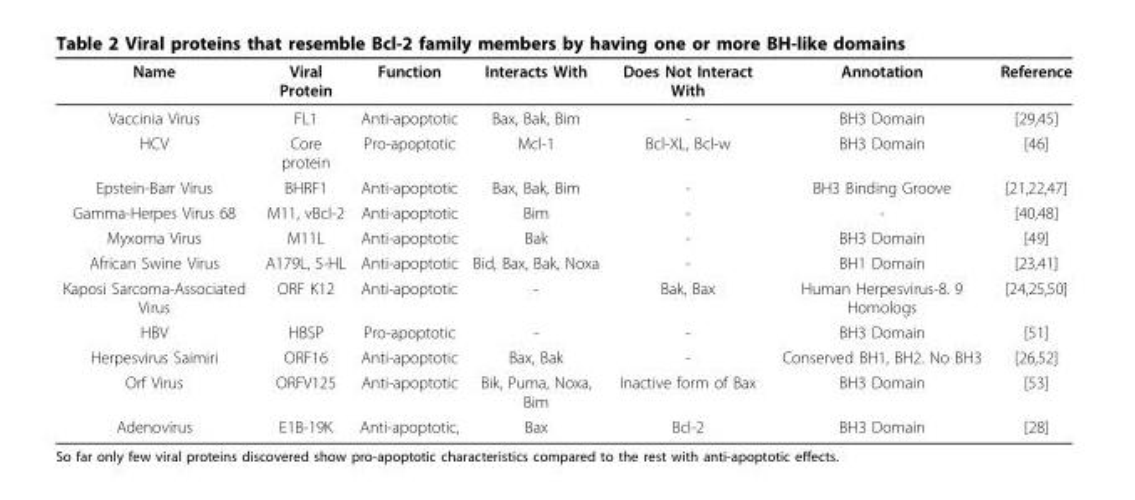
<table><thead><tr><td>Name</td><td>Viral Protein</td><td>Function</td><td>Interacts With</td><td>Does Not Interact With</td><td>Annotation</td><td>Reference</td></tr></thead><tbody><tr><td>Vaccinia Virus</td><td>FL1</td><td>Anti-apoptotic</td><td>Bax, Bak, Bim</td><td>-</td><td>BH3 Domain</td><td>[29,45]</td></tr><tr><td>HCV</td><td>Core protein</td><td>Pro-apoptotic</td><td>Mcl-1</td><td>Bcl-XL, Bcl-w</td><td>BH3 Domain</td><td>[46]</td></tr><tr><td>Epstein-Barr Virus</td><td>BHRF1</td><td>Anti-apoptotic</td><td>Bax, Bak, Bim</td><td>-</td><td>BH3 Binding Groove</td><td>[21,22,47]</td></tr><tr><td>Gamma-Herpes Virus 68</td><td>M11, vBcl-2</td><td>Anti-apoptotic</td><td>Bim</td><td>-</td><td>-</td><td>[40,48]</td></tr><tr><td>Myxoma Virus</td><td>M11L</td><td>Anti-apoptotic</td><td>Bak</td><td>-</td><td>BH3 Domain</td><td>[49]</td></tr><tr><td>African Swine Virus</td><td>A179L, 5-HL</td><td>Anti-apoptotic</td><td>Bid, Bax, Bak, Noxa</td><td>-</td><td>BH1 Domain</td><td>[23,41]</td></tr><tr><td>Kaposi Sarcoma-Associated Virus</td><td>ORF K12</td><td>Anti-apoptotic</td><td>-</td><td>Bak, Bax</td><td>Human Herpesvirus-8. 9 Homologs</td><td>[24,25,50]</td></tr><tr><td>HBV</td><td>HBSP</td><td>Pro-apoptotic</td><td>-</td><td>-</td><td>BH3 Domain</td><td>[51]</td></tr><tr><td>Herpesvirus Saimiri</td><td>ORF16</td><td>Anti-apoptotic</td><td>Bax, Bak</td><td>-</td><td>Conserved BH1, BH2. No BH3</td><td>[26,52]</td></tr><tr><td>Orf Virus</td><td>ORFV125</td><td>Anti-apoptotic</td><td>Bik, Puma, Noxa, Bim</td><td>Inactive form of Bax</td><td>BH3 Domain</td><td>[53]</td></tr><tr><td>Adenovirus</td><td>E1B-19K</td><td>Anti-apoptotic,</td><td>Bax</td><td>Bcl-2</td><td>BH3 Domain</td><td>[28]</td></tr></tbody></table>